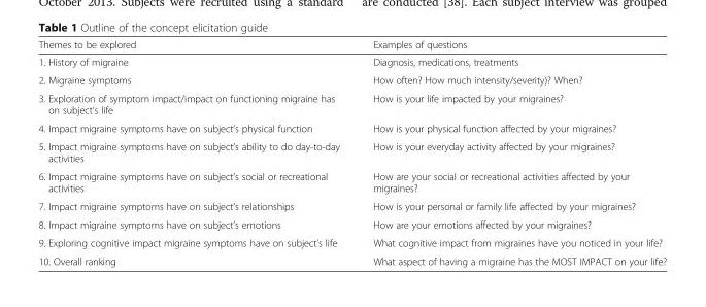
<table><thead><tr><td>Themes to be explored</td><td>Examples of questions</td></tr></thead><tbody><tr><td>1. History of migraine</td><td>Diagnosis, medications, treatments</td></tr><tr><td>2. Migraine symptoms</td><td>How often? How much intensity/severity)? When?</td></tr><tr><td>3. Exploration of symptom impact/impact on functioning migraine has on subject’s life</td><td>How is your life impacted by your migraines?</td></tr><tr><td>4. Impact migraine symptoms have on subject’s physical function</td><td>How is your physical function affected by your migraines?</td></tr><tr><td>5. Impact migraine symptoms have on subject’s ability to do day-to-day activities</td><td>How is your everyday activity affected by your migraines?</td></tr><tr><td>6. Impact migraine symptoms have on subject’s social or recreational activities</td><td>How are your social or recreational activities affected by your migraines?</td></tr><tr><td>7. Impact migraine symptoms have on subject’s relationships</td><td>How is your personal or family life affected by your migraines?</td></tr><tr><td>8. Impact migraine symptoms have on subject’s emotions</td><td>How are your emotions affected by your migraines?</td></tr><tr><td>9. Exploring cognitive impact migraine symptoms have on subject’s life</td><td>What cognitive impact from migraines have you noticed in your life?</td></tr><tr><td>10. Overall ranking</td><td>What aspect of having a migraine has the MOST IMPACT on your life?</td></tr></tbody></table>